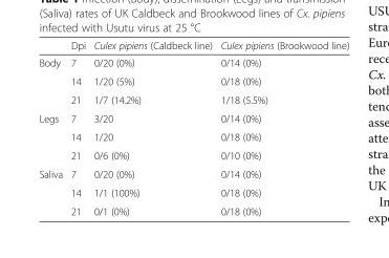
<table><thead><tr><td></td><td>Dpi</td><td>Culex pipiens (Caldbeck line)</td><td>Culex pipiens (Brookwood line)</td></tr></thead><tbody><tr><td rowspan="3">Body</td><td>7</td><td>0/20 (0%)</td><td>0/14 (0%)</td></tr><tr><td>14</td><td>1/20 (5%)</td><td>0/18 (0%)</td></tr><tr><td>21</td><td>1/7 (14.2%)</td><td>1/18 (5.5%)</td></tr><tr><td rowspan="3">Legs</td><td>7</td><td>3/20</td><td>0/14 (0%)</td></tr><tr><td>14</td><td>1/20</td><td>0/18 (0%)</td></tr><tr><td>21</td><td>0/6 (0%)</td><td>0/10 (0%)</td></tr><tr><td rowspan="3">Saliva</td><td>7</td><td>0/20 (0%)</td><td>0/14 (0%)</td></tr><tr><td>14</td><td>1/1 (100%)</td><td>0/18 (0%)</td></tr><tr><td>21</td><td>0/1 (0%)</td><td>0/18 (0%)</td></tr></tbody></table>